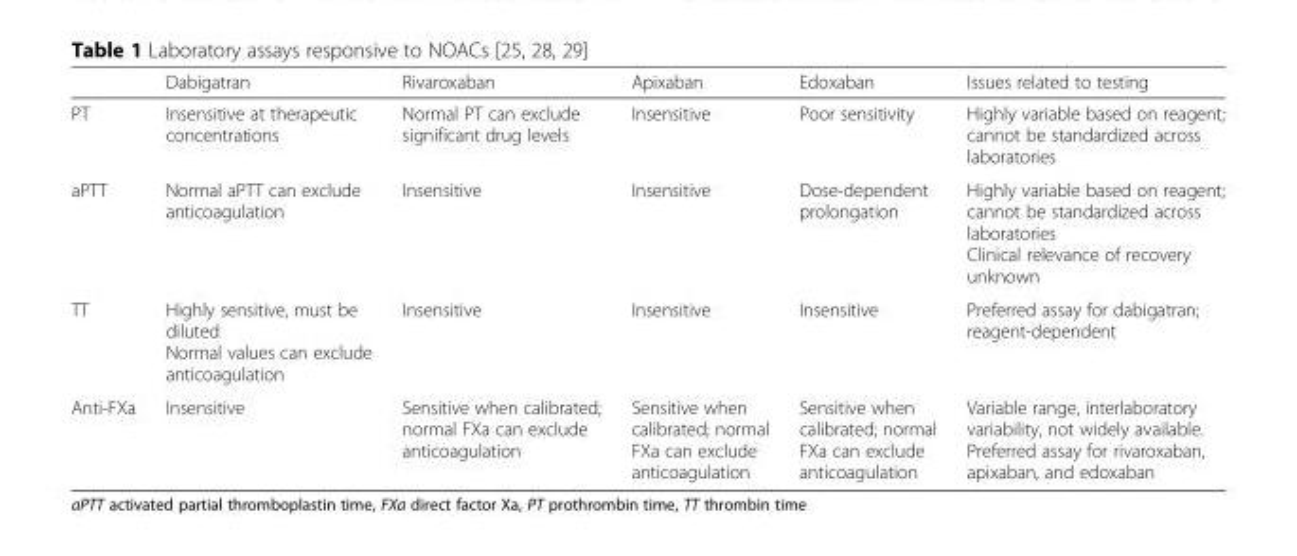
<table><thead><tr><td></td><td>Dabigatran</td><td>Rivaroxaban</td><td>Apixaban</td><td>Edoxaban</td><td>Issues related to testing</td></tr></thead><tbody><tr><td>PT</td><td>Insensitive at therapeutic concentrations</td><td>Normal PT can exclude significant drug levels</td><td>Insensitive</td><td>Poor sensitivity</td><td>Highly variable based on reagent; cannot be standardized across laboratories</td></tr><tr><td>aPTT</td><td>Normal aPTT can exclude anticoagulation</td><td>Insensitive</td><td>Insensitive</td><td>Dose-dependent prolongation</td><td>Highly variable based on reagent; cannot be standardized across laboratories Clinical relevance of recovery unknown</td></tr><tr><td>TT</td><td>Highly sensitive, must be diluted Normal values can exclude anticoagulation</td><td>Insensitive</td><td>Insensitive</td><td>Insensitive</td><td>Preferred assay for dabigatran; reagent-dependent</td></tr><tr><td>Anti-FXa</td><td>Insensitive</td><td>Sensitive when calibrated; normal FXa can exclude anticoagulation</td><td>Sensitive when calibrated; normal FXa can exclude anticoagulation</td><td>Sensitive when calibrated; normal FXa can exclude anticoagulation</td><td>Variable range, interlaboratory variability, not widely available. Preferred assay for rivaroxaban, apixaban, and edoxaban</td></tr></tbody></table>